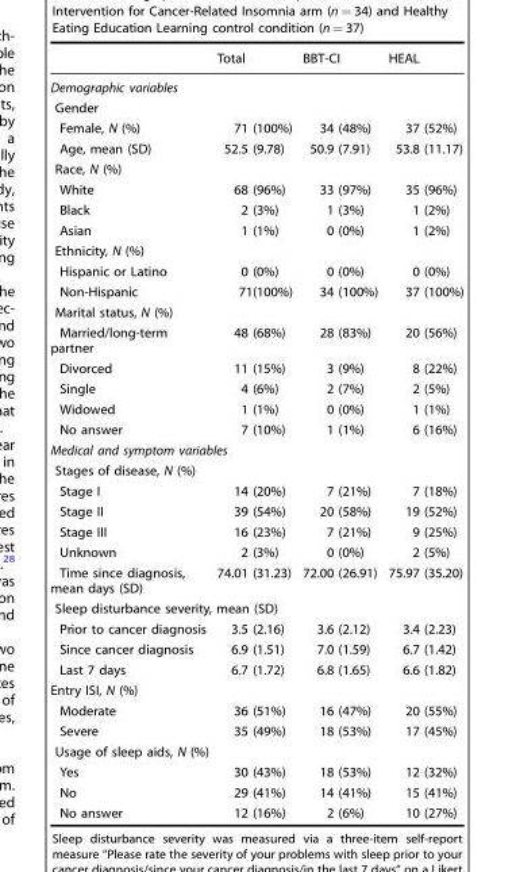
<table><thead><tr><td></td><td>Total</td><td>BBT-CI</td><td>HEAL</td></tr></thead><tbody><tr><td colspan="4">Demographic variables</td></tr><tr><td colspan="4">Gender</td></tr><tr><td>Female, N (%)</td><td>71 (100%)</td><td>34 (48%)</td><td>37 (52%)</td></tr><tr><td>Age, mean (SD)</td><td>52.5 (9.78)</td><td>50.9 (7.91)</td><td>53.8 (11.17)</td></tr><tr><td colspan="4">Race, N (%)</td></tr><tr><td>White</td><td>68 (96%)</td><td>33 (97%)</td><td>35 (96%)</td></tr><tr><td>Black</td><td>2 (3%)</td><td>1 (3%)</td><td>1 (2%)</td></tr><tr><td>Asian</td><td>1 (1%)</td><td>0 (0%)</td><td>1 (2%)</td></tr><tr><td colspan="4">Ethnicity, N (%)</td></tr><tr><td>Hispanic or Latino</td><td>0 (0%)</td><td>0 (0%)</td><td>0 (0%)</td></tr><tr><td>Non-Hispanic</td><td>71(100%)</td><td>34 (100%)</td><td>37 (100%)</td></tr><tr><td colspan="4">Marital status, N (%)</td></tr><tr><td>Married/long-term partner</td><td>48 (68%)</td><td>28 (83%)</td><td>20 (56%)</td></tr><tr><td>Divorced</td><td>11 (15%)</td><td>3 (9%)</td><td>8 (22%)</td></tr><tr><td>Single</td><td>4 (6%)</td><td>2 (7%)</td><td>2 (5%)</td></tr><tr><td>Widowed</td><td>1 (1%)</td><td>0 (0%)</td><td>1 (1%)</td></tr><tr><td>No answer</td><td>7 (10%)</td><td>1 (1%)</td><td>6 (16%)</td></tr><tr><td colspan="4">Medical and symptom variables</td></tr><tr><td colspan="4">Stages of disease, N (%)</td></tr><tr><td>Stage I</td><td>14 (20%)</td><td>7 (21%)</td><td>7 (18%)</td></tr><tr><td>Stage II</td><td>39 (54%)</td><td>20 (58%)</td><td>19 (52%)</td></tr><tr><td>Stage III</td><td>16 (23%)</td><td>7 (21%)</td><td>9 (25%)</td></tr><tr><td>Unknown</td><td>2 (3%)</td><td>0 (0%)</td><td>2 (5%)</td></tr><tr><td>Time since diagnosis, mean days (SD)</td><td>74.01 (31.23)</td><td>72.00 (26.91)</td><td>75.97 (35.20)</td></tr><tr><td colspan="4">Sleep disturbance severity, mean (SD)</td></tr><tr><td>Prior to cancer diagnosis</td><td>3.5 (2.16)</td><td>3.6 (2.12)</td><td>3.4 (2.23)</td></tr><tr><td>Since cancer diagnosis</td><td>6.9 (1.51)</td><td>7.0 (1.59)</td><td>6.7 (1.42)</td></tr><tr><td>Last 7 days</td><td>6.7 (1.72)</td><td>6.8 (1.65)</td><td>6.6 (1.82)</td></tr><tr><td colspan="4">Entry ISI, N (%)</td></tr><tr><td>Moderate</td><td>36 (51%)</td><td>16 (47%)</td><td>20 (55%)</td></tr><tr><td>Severe</td><td>35 (49%)</td><td>18 (53%)</td><td>17 (45%)</td></tr><tr><td colspan="4">Usage of sleep aids, N (%)</td></tr><tr><td>Yes</td><td>30 (43%)</td><td>18 (53%)</td><td>12 (32%)</td></tr><tr><td>No</td><td>29 (41%)</td><td>14 (41%)</td><td>15 (41%)</td></tr><tr><td>No answer</td><td>12 (16%)</td><td>2 (6%)</td><td>10 (27%)</td></tr></tbody></table>